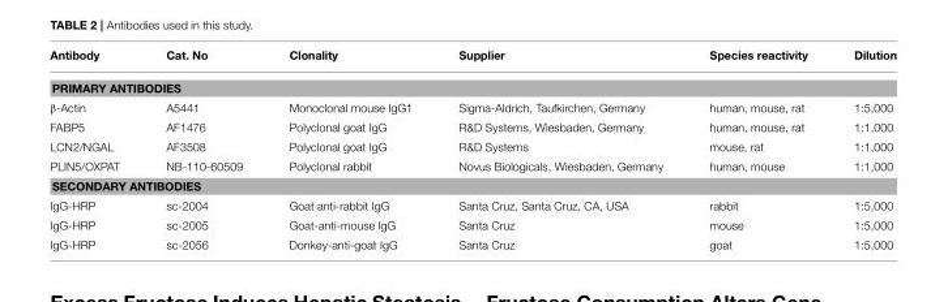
<table><thead><tr><td>Antibody</td><td>Cat. No</td><td>Clonality</td><td>Supplier</td><td>Species reactivity</td><td>Dilution</td></tr></thead><tbody><tr><td colspan="6">PRIMARY ANTIBODIES</td></tr><tr><td>β-Actin</td><td>A5441</td><td>Monoclonal mouse IgG1</td><td>Sigma-Aldrich, Taufkirchen, Germany</td><td>human, mouse, rat</td><td>1:5,000</td></tr><tr><td>FABP5</td><td>AF1476</td><td>Polyclonal goat IgG</td><td>R&amp;D Systems, Wiesbaden, Germany</td><td>human, mouse, rat</td><td>1:1,000</td></tr><tr><td>LCN2/NGAL</td><td>AF3508</td><td>Polyclonal goat IgG</td><td>R&amp;D Systems</td><td>mouse, rat</td><td>1:1,000</td></tr><tr><td>PLIN5/OXPAT</td><td>NB-110-60509</td><td>Polyclonal rabbit</td><td>Novus Biologicals, Wiesbaden, Germany</td><td>human, mouse</td><td>1:1,000</td></tr><tr><td colspan="6">SECONDARY ANTIBODIES</td></tr><tr><td>IgG-HRP</td><td>sc-2004</td><td>Goat anti-rabbit IgG</td><td>Santa Cruz, Santa Cruz, CA, USA</td><td>rabbit</td><td>1:5,000</td></tr><tr><td>IgG-HRP</td><td>sc-2005</td><td>Goat-anti-mouse IgG</td><td>Santa Cruz</td><td>mouse</td><td>1:5,000</td></tr><tr><td>IgG-HRP</td><td>sc-2056</td><td>Donkey-anti-goat IgG</td><td>Santa Cruz</td><td>goat</td><td>1:5,000</td></tr></tbody></table>